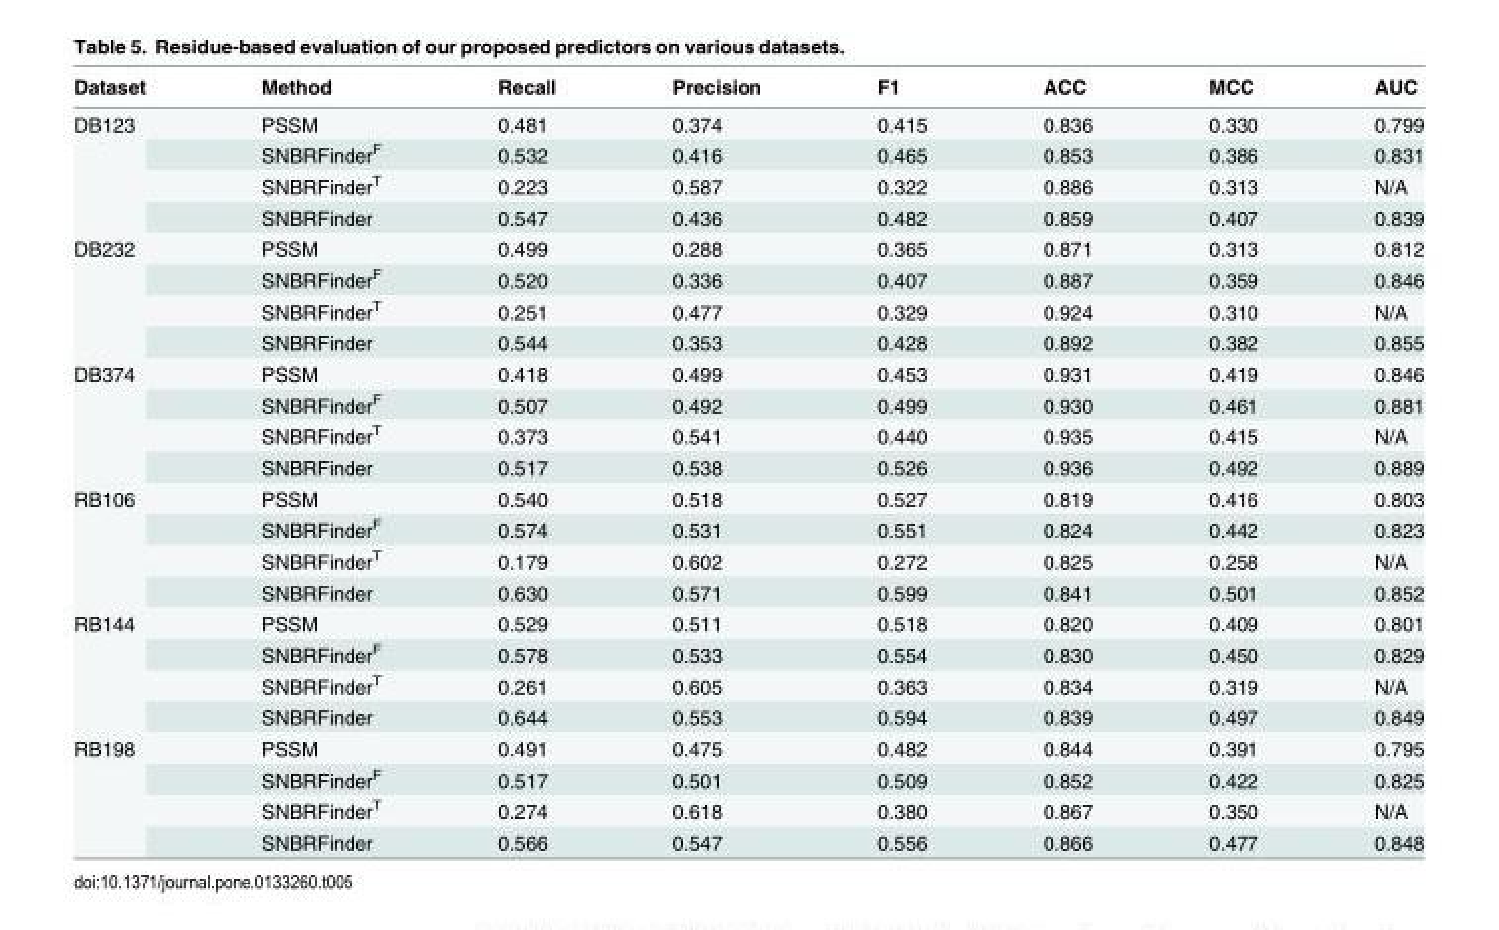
<table><thead><tr><td>Dataset</td><td>Method</td><td>Recall</td><td>Precision</td><td>F1</td><td>ACC</td><td>MCC</td><td>AUC</td></tr></thead><tbody><tr><td rowspan="4">DB123</td><td>PSSM</td><td>0.481</td><td>0.374</td><td>0.415</td><td>0.836</td><td>0.330</td><td>0.799</td></tr><tr><td>SNBRFinder<sup>F</sup></td><td>0.532</td><td>0.416</td><td>0.465</td><td>0.853</td><td>0.386</td><td>0.831</td></tr><tr><td>SNBRFinder<sup>T</sup></td><td>0.223</td><td>0.587</td><td>0.322</td><td>0.886</td><td>0.313</td><td>N/A</td></tr><tr><td>SNBRFinder</td><td>0.547</td><td>0.436</td><td>0.482</td><td>0.859</td><td>0.407</td><td>0.839</td></tr><tr><td rowspan="4">DB232</td><td>PSSM</td><td>0.499</td><td>0.288</td><td>0.365</td><td>0.871</td><td>0.313</td><td>0.812</td></tr><tr><td>SNBRFinder<sup>F</sup></td><td>0.520</td><td>0.336</td><td>0.407</td><td>0.887</td><td>0.359</td><td>0.846</td></tr><tr><td>SNBRFinder<sup>T</sup></td><td>0.251</td><td>0.477</td><td>0.329</td><td>0.924</td><td>0.310</td><td>N/A</td></tr><tr><td>SNBRFinder</td><td>0.544</td><td>0.353</td><td>0.428</td><td>0.892</td><td>0.382</td><td>0.855</td></tr><tr><td rowspan="4">DB374</td><td>PSSM</td><td>0.418</td><td>0.499</td><td>0.453</td><td>0.931</td><td>0.419</td><td>0.846</td></tr><tr><td>SNBRFinder<sup>F</sup></td><td>0.507</td><td>0.492</td><td>0.499</td><td>0.930</td><td>0.461</td><td>0.881</td></tr><tr><td>SNBRFinder<sup>T</sup></td><td>0.373</td><td>0.541</td><td>0.440</td><td>0.935</td><td>0.415</td><td>N/A</td></tr><tr><td>SNBRFinder</td><td>0.517</td><td>0.538</td><td>0.526</td><td>0.936</td><td>0.492</td><td>0.889</td></tr><tr><td rowspan="4">RB106</td><td>PSSM</td><td>0.540</td><td>0.518</td><td>0.527</td><td>0.819</td><td>0.416</td><td>0.803</td></tr><tr><td>SNBRFinder<sup>F</sup></td><td>0.574</td><td>0.531</td><td>0.551</td><td>0.824</td><td>0.442</td><td>0.823</td></tr><tr><td>SNBRFinder<sup>T</sup></td><td>0.179</td><td>0.602</td><td>0.272</td><td>0.825</td><td>0.258</td><td>N/A</td></tr><tr><td>SNBRFinder</td><td>0.630</td><td>0.571</td><td>0.599</td><td>0.841</td><td>0.501</td><td>0.852</td></tr><tr><td rowspan="4">RB144</td><td>PSSM</td><td>0.529</td><td>0.511</td><td>0.518</td><td>0.820</td><td>0.409</td><td>0.801</td></tr><tr><td>SNBRFinder<sup>F</sup></td><td>0.578</td><td>0.533</td><td>0.554</td><td>0.830</td><td>0.450</td><td>0.829</td></tr><tr><td>SNBRFinder<sup>T</sup></td><td>0.261</td><td>0.605</td><td>0.363</td><td>0.834</td><td>0.319</td><td>N/A</td></tr><tr><td>SNBRFinder</td><td>0.644</td><td>0.553</td><td>0.594</td><td>0.839</td><td>0.497</td><td>0.849</td></tr><tr><td rowspan="4">RB198</td><td>PSSM</td><td>0.491</td><td>0.475</td><td>0.482</td><td>0.844</td><td>0.391</td><td>0.795</td></tr><tr><td>SNBRFinder<sup>F</sup></td><td>0.517</td><td>0.501</td><td>0.509</td><td>0.852</td><td>0.422</td><td>0.825</td></tr><tr><td>SNBRFinder<sup>T</sup></td><td>0.274</td><td>0.618</td><td>0.380</td><td>0.867</td><td>0.350</td><td>N/A</td></tr><tr><td>SNBRFinder</td><td>0.566</td><td>0.547</td><td>0.556</td><td>0.866</td><td>0.477</td><td>0.848</td></tr></tbody></table>